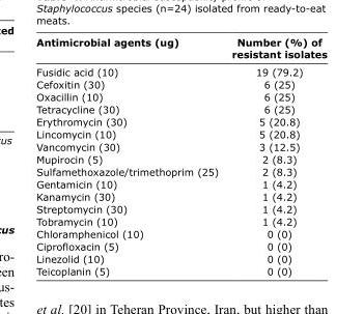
<table><thead><tr><td>Antimicrobial agents (ug)</td><td>Number (%) of resistant isolates</td></tr></thead><tbody><tr><td>Fusidic acid (10)</td><td>19 (79.2)</td></tr><tr><td>Cefoxitin (30)</td><td>6 (25)</td></tr><tr><td>Oxacillin (10)</td><td>6 (25)</td></tr><tr><td>Tetracycline (30)</td><td>6 (25)</td></tr><tr><td>Erythromycin (30)</td><td>5 (20.8)</td></tr><tr><td>Lincomycin (10)</td><td>5 (20.8)</td></tr><tr><td>Vancomycin (30)</td><td>3 (12.5)</td></tr><tr><td>Mupirocin (5)</td><td>2 (8.3)</td></tr><tr><td>Sulfamethoxazole/trimethoprim (25)</td><td>2 (8.3)</td></tr><tr><td>Gentamicin (10)</td><td>1 (4.2)</td></tr><tr><td>Kanamycin (30)</td><td>1 (4.2)</td></tr><tr><td>Streptomycin (30)</td><td>1 (4.2)</td></tr><tr><td>Tobramycin (10)</td><td>1 (4.2)</td></tr><tr><td>Chloramphenicol (10)</td><td>0 (0)</td></tr><tr><td>Ciprofloxacin (5)</td><td>0 (0)</td></tr><tr><td>Linezolid (10)</td><td>0 (0)</td></tr><tr><td>Teicoplanin (5)</td><td>0 (0)</td></tr></tbody></table>